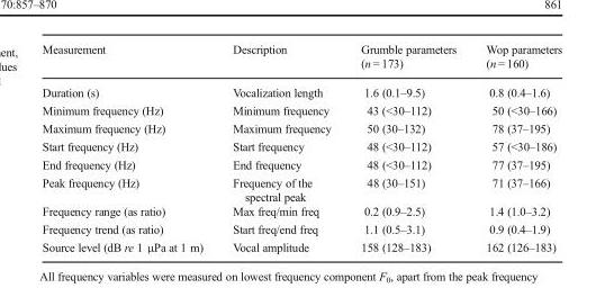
<table><thead><tr><td>Measurement</td><td>Description</td><td>Grumble parameters (n = 173)</td><td>Wop parameters (n = 160)</td></tr></thead><tbody><tr><td>Duration (s)</td><td>Vocalization length</td><td>1.6 (0.1–9.5)</td><td>0.8 (0.4–1.6)</td></tr><tr><td>Minimum frequency (Hz)</td><td>Minimum frequency</td><td>43 (&lt;30–112)</td><td>50 (&lt;30–166)</td></tr><tr><td>Maximum frequency (Hz)</td><td>Maximum frequency</td><td>50 (30–132)</td><td>78 (37–195)</td></tr><tr><td>Start frequency (Hz)</td><td>Start frequency</td><td>48 (&lt;30–112)</td><td>57 (&lt;30–186)</td></tr><tr><td>End frequency (Hz)</td><td>End frequency</td><td>48 (&lt;30–112)</td><td>77 (37–195)</td></tr><tr><td>Peak frequency (Hz)</td><td>Frequency of the spectral peak</td><td>48 (30–151)</td><td>71 (37–166)</td></tr><tr><td>Frequency range (as ratio)</td><td>Max freq/min freq</td><td>0.2 (0.9–2.5)</td><td>1.4 (1.0–3.2)</td></tr><tr><td>Frequency trend (as ratio)</td><td>Start freq/end freq</td><td>1.1 (0.5–3.1)</td><td>0.9 (0.4–1.9)</td></tr><tr><td>Source level (dB re 1 μPa at 1 m)</td><td>Vocal amplitude</td><td>158 (128–183)</td><td>162 (126–183)</td></tr></tbody></table>